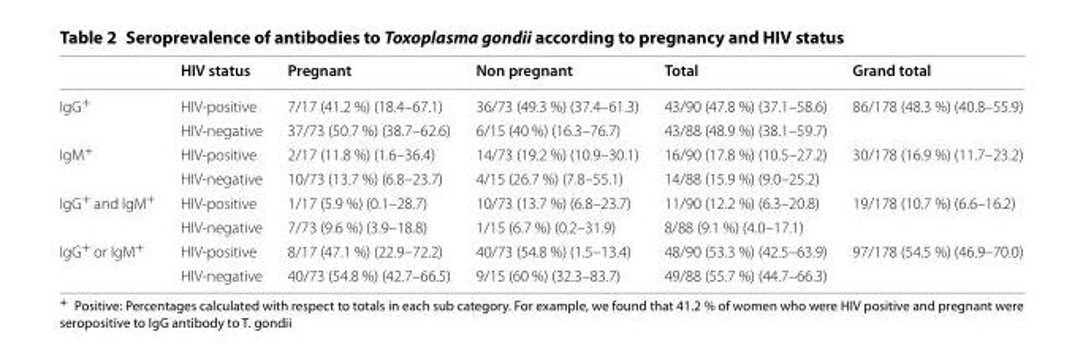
<table><thead><tr><td></td><td>HIV status</td><td>Pregnant</td><td>Non pregnant</td><td>Total</td><td>Grand total</td></tr></thead><tbody><tr><td rowspan="2">IgG<sup>+</sup></td><td>HIV-positive</td><td>7/17 (41.2 %) (18.4–67.1)</td><td>36/73 (49.3 %) (37.4–61.3)</td><td>43/90 (47.8 %) (37.1–58.6)</td><td>86/178 (48.3 %) (40.8–55.9)</td></tr><tr><td>HIV-negative</td><td>37/73 (50.7 %) (38.7–62.6)</td><td>6/15 (40 %) (16.3–76.7)</td><td>43/88 (48.9 %) (38.1–59.7)</td><td></td></tr><tr><td rowspan="2">IgM<sup>+</sup></td><td>HIV-positive</td><td>2/17 (11.8 %) (1.6–36.4)</td><td>14/73 (19.2 %) (10.9–30.1)</td><td>16/90 (17.8 %) (10.5–27.2)</td><td>30/178 (16.9 %) (11.7–23.2)</td></tr><tr><td>HIV-negative</td><td>10/73 (13.7 %) (6.8–23.7)</td><td>4/15 (26.7 %) (7.8–55.1)</td><td>14/88 (15.9 %) (9.0–25.2)</td><td></td></tr><tr><td rowspan="2">IgG<sup>+</sup> and IgM<sup>+</sup></td><td>HIV-positive</td><td>1/17 (5.9 %) (0.1–28.7)</td><td>10/73 (13.7 %) (6.8–23.7)</td><td>11/90 (12.2 %) (6.3–20.8)</td><td rowspan="2">19/178 (10.7 %) (6.6–16.2)</td></tr><tr><td>HIV-negative</td><td>7/73 (9.6 %) (3.9–18.8)</td><td>1/15 (6.7 %) (0.2–31.9)</td><td>8/88 (9.1 %) (4.0–17.1)</td></tr><tr><td rowspan="2">IgG<sup>+</sup> or IgM<sup>+</sup></td><td>HIV-positive</td><td>8/17 (47.1 %) (22.9–72.2)</td><td>40/73 (54.8 %) (1.5–13.4)</td><td>48/90 (53.3 %) (42.5–63.9)</td><td rowspan="2">97/178 (54.5 %) (46.9–70.0)</td></tr><tr><td>HIV-negative</td><td>40/73 (54.8 %) (42.7–66.5)</td><td>9/15 (60 %) (32.3–83.7)</td><td>49/88 (55.7 %) (44.7–66.3)</td></tr></tbody></table>